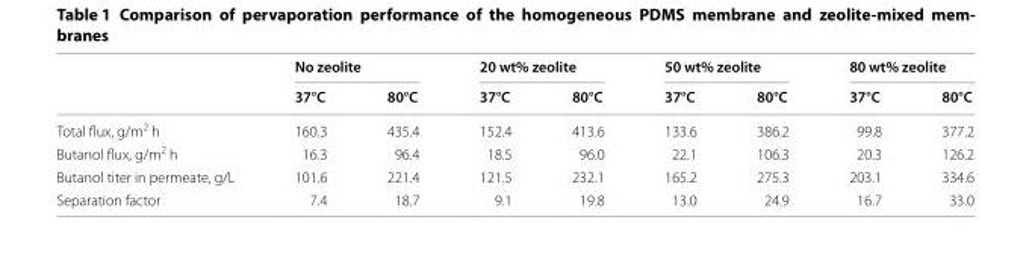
<table><thead><tr><td rowspan="2"></td><td colspan="2">No zeolite</td><td colspan="2">20 wt% zeolite</td><td colspan="2">50 wt% zeolite</td><td colspan="2">80 wt% zeolite</td></tr><tr><td>37°C</td><td>80°C</td><td>37°C</td><td>80°C</td><td>37°C</td><td>80°C</td><td>37°C</td><td>80°C</td></tr></thead><tbody><tr><td>Total flux, g/m<sup>2</sup> h</td><td>160.3</td><td>435.4</td><td>152.4</td><td>413.6</td><td>133.6</td><td>386.2</td><td>99.8</td><td>377.2</td></tr><tr><td>Butanol flux, g/m<sup>2</sup> h</td><td>16.3</td><td>96.4</td><td>18.5</td><td>96.0</td><td>22.1</td><td>106.3</td><td>20.3</td><td>126.2</td></tr><tr><td>Butanol titer in permeate, g/L</td><td>101.6</td><td>221.4</td><td>121.5</td><td>232.1</td><td>165.2</td><td>275.3</td><td>203.1</td><td>334.6</td></tr><tr><td>Separation factor</td><td>7.4</td><td>18.7</td><td>9.1</td><td>19.8</td><td>13.0</td><td>24.9</td><td>16.7</td><td>33.0</td></tr></tbody></table>